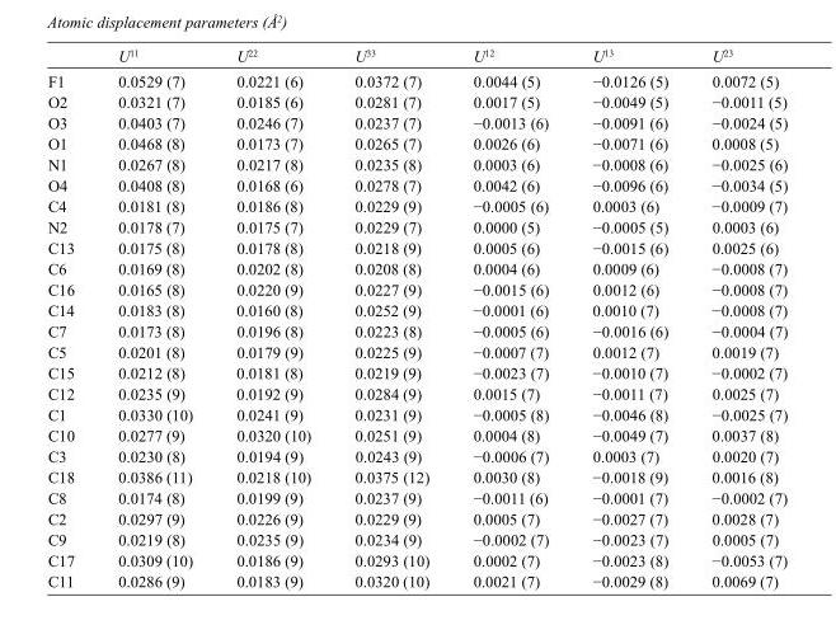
<table><thead><tr><td></td><td>U<sup>11</sup></td><td>U<sup>22</sup></td><td>U<sup>33</sup></td><td>U<sup>12</sup></td><td>U<sup>13</sup></td><td>U<sup>23</sup></td></tr></thead><tbody><tr><td>F1</td><td>0.0529 (7)</td><td>0.0221 (6)</td><td>0.0372 (7)</td><td>0.0044 (5)</td><td>−0.0126 (5)</td><td>0.0072 (5)</td></tr><tr><td>O2</td><td>0.0321 (7)</td><td>0.0185 (6)</td><td>0.0281 (7)</td><td>0.0017 (5)</td><td>−0.0049 (5)</td><td>−0.0011 (5)</td></tr><tr><td>O3</td><td>0.0403 (7)</td><td>0.0246 (7)</td><td>0.0237 (7)</td><td>−0.0013 (6)</td><td>−0.0091 (6)</td><td>−0.0024 (5)</td></tr><tr><td>O1</td><td>0.0468 (8)</td><td>0.0173 (7)</td><td>0.0265 (7)</td><td>0.0026 (6)</td><td>−0.0071 (6)</td><td>0.0008 (5)</td></tr><tr><td>N1</td><td>0.0267 (8)</td><td>0.0217 (8)</td><td>0.0235 (8)</td><td>0.0003 (6)</td><td>−0.0008 (6)</td><td>−0.0025 (6)</td></tr><tr><td>O4</td><td>0.0408 (8)</td><td>0.0168 (6)</td><td>0.0278 (7)</td><td>0.0042 (6)</td><td>−0.0096 (6)</td><td>−0.0034 (5)</td></tr><tr><td>C4</td><td>0.0181 (8)</td><td>0.0186 (8)</td><td>0.0229 (9)</td><td>−0.0005 (6)</td><td>0.0003 (6)</td><td>−0.0009 (7)</td></tr><tr><td>N2</td><td>0.0178 (7)</td><td>0.0175 (7)</td><td>0.0229 (7)</td><td>0.0000 (5)</td><td>−0.0005 (5)</td><td>0.0003 (6)</td></tr><tr><td>C13</td><td>0.0175 (8)</td><td>0.0178 (8)</td><td>0.0218 (9)</td><td>0.0005 (6)</td><td>−0.0015 (6)</td><td>0.0025 (6)</td></tr><tr><td>C6</td><td>0.0169 (8)</td><td>0.0202 (8)</td><td>0.0208 (8)</td><td>0.0004 (6)</td><td>0.0009 (6)</td><td>−0.0008 (7)</td></tr><tr><td>C16</td><td>0.0165 (8)</td><td>0.0220 (9)</td><td>0.0227 (9)</td><td>−0.0015 (6)</td><td>0.0012 (6)</td><td>−0.0008 (7)</td></tr><tr><td>C14</td><td>0.0183 (8)</td><td>0.0160 (8)</td><td>0.0252 (9)</td><td>−0.0001 (6)</td><td>0.0010 (7)</td><td>−0.0008 (7)</td></tr><tr><td>C7</td><td>0.0173 (8)</td><td>0.0196 (8)</td><td>0.0223 (8)</td><td>−0.0005 (6)</td><td>−0.0016 (6)</td><td>−0.0004 (7)</td></tr><tr><td>C5</td><td>0.0201 (8)</td><td>0.0179 (9)</td><td>0.0225 (9)</td><td>−0.0007 (7)</td><td>0.0012 (7)</td><td>0.0019 (7)</td></tr><tr><td>C15</td><td>0.0212 (8)</td><td>0.0181 (8)</td><td>0.0219 (9)</td><td>−0.0023 (7)</td><td>−0.0010 (7)</td><td>−0.0002 (7)</td></tr><tr><td>C12</td><td>0.0235 (9)</td><td>0.0192 (9)</td><td>0.0284 (9)</td><td>0.0015 (7)</td><td>−0.0011 (7)</td><td>0.0025 (7)</td></tr><tr><td>C1</td><td>0.0330 (10)</td><td>0.0241 (9)</td><td>0.0231 (9)</td><td>−0.0005 (8)</td><td>−0.0046 (8)</td><td>−0.0025 (7)</td></tr><tr><td>C10</td><td>0.0277 (9)</td><td>0.0320 (10)</td><td>0.0251 (9)</td><td>0.0004 (8)</td><td>−0.0049 (7)</td><td>0.0037 (8)</td></tr><tr><td>C3</td><td>0.0230 (8)</td><td>0.0194 (9)</td><td>0.0243 (9)</td><td>−0.0006 (7)</td><td>0.0003 (7)</td><td>0.0020 (7)</td></tr><tr><td>C18</td><td>0.0386 (11)</td><td>0.0218 (10)</td><td>0.0375 (12)</td><td>0.0030 (8)</td><td>−0.0018 (9)</td><td>0.0016 (8)</td></tr><tr><td>C8</td><td>0.0174 (8)</td><td>0.0199 (9)</td><td>0.0237 (9)</td><td>−0.0011 (6)</td><td>−0.0001 (7)</td><td>−0.0002 (7)</td></tr><tr><td>C2</td><td>0.0297 (9)</td><td>0.0226 (9)</td><td>0.0229 (9)</td><td>0.0005 (7)</td><td>−0.0027 (7)</td><td>0.0028 (7)</td></tr><tr><td>C9</td><td>0.0219 (8)</td><td>0.0235 (9)</td><td>0.0234 (9)</td><td>−0.0002 (7)</td><td>−0.0023 (7)</td><td>0.0005 (7)</td></tr><tr><td>C17</td><td>0.0309 (10)</td><td>0.0186 (9)</td><td>0.0293 (10)</td><td>0.0002 (7)</td><td>−0.0023 (8)</td><td>−0.0053 (7)</td></tr><tr><td>C11</td><td>0.0286 (9)</td><td>0.0183 (9)</td><td>0.0320 (10)</td><td>0.0021 (7)</td><td>−0.0029 (8)</td><td>0.0069 (7)</td></tr></tbody></table>